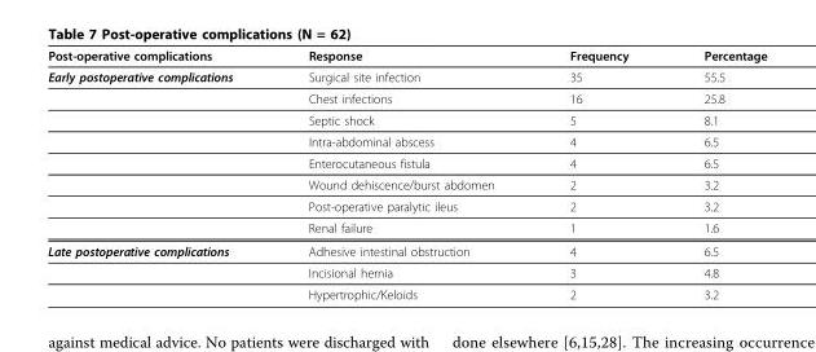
<table><thead><tr><td>Post-operative complications</td><td>Response</td><td>Frequency</td><td>Percentage</td></tr></thead><tbody><tr><td rowspan="8">Early postoperative complications</td><td>Surgical site infection</td><td>35</td><td>55.5</td></tr><tr><td>Chest infections</td><td>16</td><td>25.8</td></tr><tr><td>Septic shock</td><td>5</td><td>8.1</td></tr><tr><td>Intra-abdominal abscess</td><td>4</td><td>6.5</td></tr><tr><td>Enterocutaneous fistula</td><td>4</td><td>6.5</td></tr><tr><td>Wound dehiscence/burst abdomen</td><td>2</td><td>3.2</td></tr><tr><td>Post-operative paralytic ileus</td><td>2</td><td>3.2</td></tr><tr><td>Renal failure</td><td>1</td><td>1.6</td></tr><tr><td rowspan="3">Late postoperative complications</td><td>Adhesive intestinal obstruction</td><td>4</td><td>6.5</td></tr><tr><td>Incisional hernia</td><td>3</td><td>4.8</td></tr><tr><td>Hypertrophic/Keloids</td><td>2</td><td>3.2</td></tr></tbody></table>